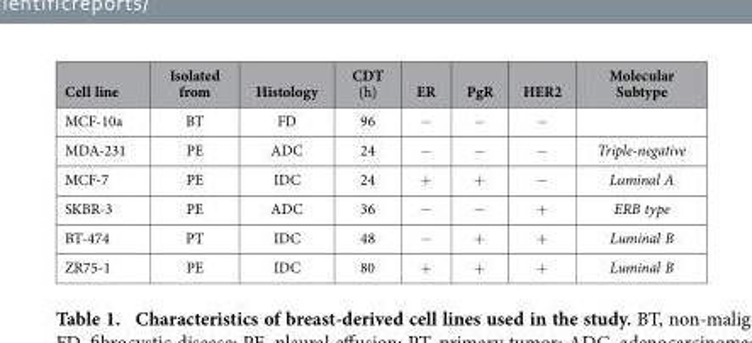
<table><thead><tr><td>Cell line</td><td>Isolated from</td><td>Histology</td><td>CDT (h)</td><td>ER</td><td>PgR</td><td>HER2</td><td>Molecular Subtype</td></tr></thead><tbody><tr><td>MCF-10a</td><td>BT</td><td>FD</td><td>96</td><td>−</td><td>−</td><td>−</td><td></td></tr><tr><td>MDA-231</td><td>PE</td><td>ADC</td><td>24</td><td>−</td><td>−</td><td>−</td><td>Triple-negative</td></tr><tr><td>MCF-7</td><td>PE</td><td>IDC</td><td>24</td><td>+</td><td>+</td><td>−</td><td>Luminal A</td></tr><tr><td>SKBR-3</td><td>PE</td><td>ADC</td><td>36</td><td>−</td><td>−</td><td>+</td><td>ERB type</td></tr><tr><td>BT-474</td><td>PT</td><td>IDC</td><td>48</td><td>−</td><td>+</td><td>+</td><td>Luminal B</td></tr><tr><td>ZR75-1</td><td>PE</td><td>IDC</td><td>80</td><td>+</td><td>+</td><td>+</td><td>Luminal B</td></tr></tbody></table>